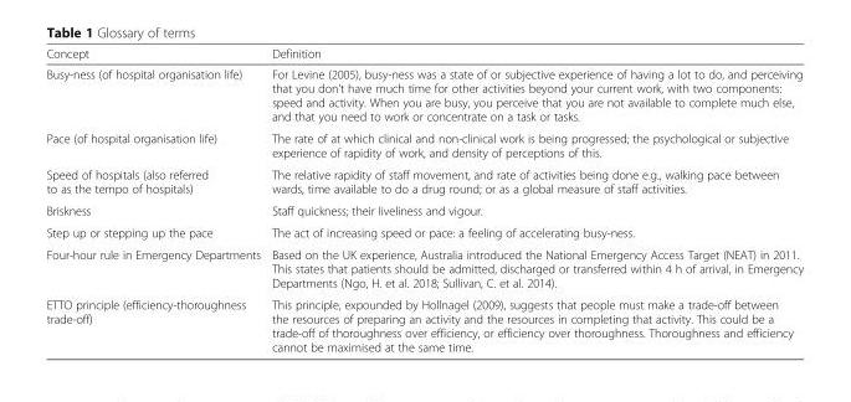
<table><thead><tr><td>Concept</td><td>Definition</td></tr></thead><tbody><tr><td>Busy-ness (of hospital organisation life)</td><td>For Levine (2005), busy-ness was a state of or subjective experience of having a lot to do, and perceiving that you don’t have much time for other activities beyond your current work, with two components: speed and activity. When you are busy, you perceive that you are not available to complete much else, and that you need to work or concentrate on a task or tasks.</td></tr><tr><td>Pace (of hospital organisation life)</td><td>The rate of at which clinical and non-clinical work is being progressed; the psychological or subjective experience of rapidity of work, and density of perceptions of this.</td></tr><tr><td>Speed of hospitals (also referred to as the tempo of hospitals)</td><td>The relative rapidity of staff movement, and rate of activities being done e.g., walking pace between wards, time available to do a drug round; or as a global measure of staff activities.</td></tr><tr><td>Briskness</td><td>Staff quickness; their liveliness and vigour.</td></tr><tr><td>Step up or stepping up the pace</td><td>The act of increasing speed or pace: a feeling of accelerating busy-ness.</td></tr><tr><td>Four-hour rule in Emergency Departments</td><td>Based on the UK experience, Australia introduced the National Emergency Access Target (NEAT) in 2011. This states that patients should be admitted, discharged or transferred within 4 h of arrival, in Emergency Departments (Ngo, H. et al. 2018; Sullivan, C. et al. 2014).</td></tr><tr><td>ETTO principle (efficiency-thoroughness trade-off)</td><td>This principle, expounded by Hollnagel (2009), suggests that people must make a trade-off between the resources of preparing an activity and the resources in completing that activity. This could be a trade-off of thoroughness over efficiency, or efficiency over thoroughness. Thoroughness and efficiency cannot be maximised at the same time.</td></tr></tbody></table>